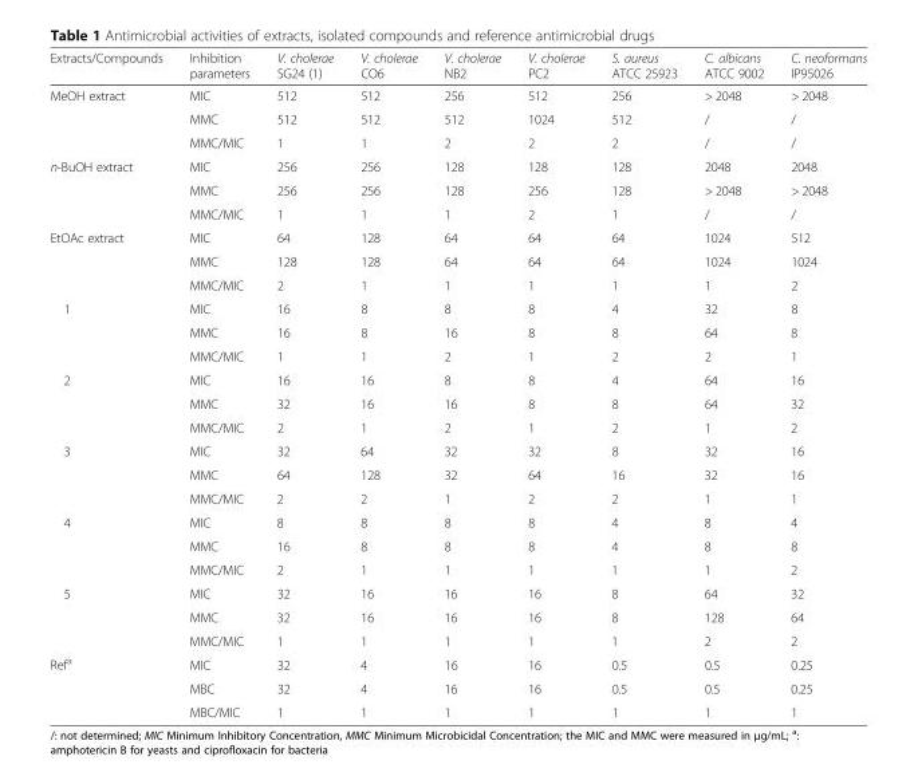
<table><thead><tr><td>Extracts/Compounds</td><td>Inhibition parameters</td><td>V. cholerae SG24 (1)</td><td>V. cholerae CO6</td><td>V. cholerae NB2</td><td>V. cholerae PC2</td><td>S. aureus ATCC 25923</td><td>C. albicans ATCC 9002</td><td>C. neoformans IP95026</td></tr></thead><tbody><tr><td rowspan="3">MeOH extract</td><td>MIC</td><td>512</td><td>512</td><td>256</td><td>512</td><td>256</td><td>&gt; 2048</td><td>&gt; 2048</td></tr><tr><td>MMC</td><td>512</td><td>512</td><td>512</td><td>1024</td><td>512</td><td>/</td><td>/</td></tr><tr><td>MMC/MIC</td><td>1</td><td>1</td><td>2</td><td>2</td><td>2</td><td>/</td><td>/</td></tr><tr><td rowspan="3">n-BuOH extract</td><td>MIC</td><td>256</td><td>256</td><td>128</td><td>128</td><td>128</td><td>2048</td><td>2048</td></tr><tr><td>MMC</td><td>256</td><td>256</td><td>128</td><td>256</td><td>128</td><td>&gt; 2048</td><td>&gt; 2048</td></tr><tr><td>MMC/MIC</td><td>1</td><td>1</td><td>1</td><td>2</td><td>1</td><td>/</td><td>/</td></tr><tr><td rowspan="3">EtOAc extract</td><td>MIC</td><td>64</td><td>128</td><td>64</td><td>64</td><td>64</td><td>1024</td><td>512</td></tr><tr><td>MMC</td><td>128</td><td>128</td><td>64</td><td>64</td><td>64</td><td>1024</td><td>1024</td></tr><tr><td>MMC/MIC</td><td>2</td><td>1</td><td>1</td><td>1</td><td>1</td><td>1</td><td>2</td></tr><tr><td rowspan="3">1</td><td>MIC</td><td>16</td><td>8</td><td>8</td><td>8</td><td>4</td><td>32</td><td>8</td></tr><tr><td>MMC</td><td>16</td><td>8</td><td>16</td><td>8</td><td>8</td><td>64</td><td>8</td></tr><tr><td>MMC/MIC</td><td>1</td><td>1</td><td>2</td><td>1</td><td>2</td><td>2</td><td>1</td></tr><tr><td rowspan="3">2</td><td>MIC</td><td>16</td><td>16</td><td>8</td><td>8</td><td>4</td><td>64</td><td>16</td></tr><tr><td>MMC</td><td>32</td><td>16</td><td>16</td><td>8</td><td>8</td><td>64</td><td>32</td></tr><tr><td>MMC/MIC</td><td>2</td><td>1</td><td>2</td><td>1</td><td>2</td><td>1</td><td>2</td></tr><tr><td rowspan="3">3</td><td>MIC</td><td>32</td><td>64</td><td>32</td><td>32</td><td>8</td><td>32</td><td>16</td></tr><tr><td>MMC</td><td>64</td><td>128</td><td>32</td><td>64</td><td>16</td><td>32</td><td>16</td></tr><tr><td>MMC/MIC</td><td>2</td><td>2</td><td>1</td><td>2</td><td>2</td><td>1</td><td>1</td></tr><tr><td rowspan="3">4</td><td>MIC</td><td>8</td><td>8</td><td>8</td><td>8</td><td>4</td><td>8</td><td>4</td></tr><tr><td>MMC</td><td>16</td><td>8</td><td>8</td><td>8</td><td>4</td><td>8</td><td>8</td></tr><tr><td>MMC/MIC</td><td>2</td><td>1</td><td>1</td><td>1</td><td>1</td><td>1</td><td>2</td></tr><tr><td rowspan="3">5</td><td>MIC</td><td>32</td><td>16</td><td>16</td><td>16</td><td>8</td><td>64</td><td>32</td></tr><tr><td>MMC</td><td>32</td><td>16</td><td>16</td><td>16</td><td>8</td><td>128</td><td>64</td></tr><tr><td>MMC/MIC</td><td>1</td><td>1</td><td>1</td><td>1</td><td>1</td><td>2</td><td>2</td></tr><tr><td rowspan="3">Ref<sup>a</sup></td><td>MIC</td><td>32</td><td>4</td><td>16</td><td>16</td><td>0.5</td><td>0.5</td><td>0.25</td></tr><tr><td>MBC</td><td>32</td><td>4</td><td>16</td><td>16</td><td>0.5</td><td>0.5</td><td>0.25</td></tr><tr><td>MBC/MIC</td><td>1</td><td>1</td><td>1</td><td>1</td><td>1</td><td>1</td><td>1</td></tr></tbody></table>